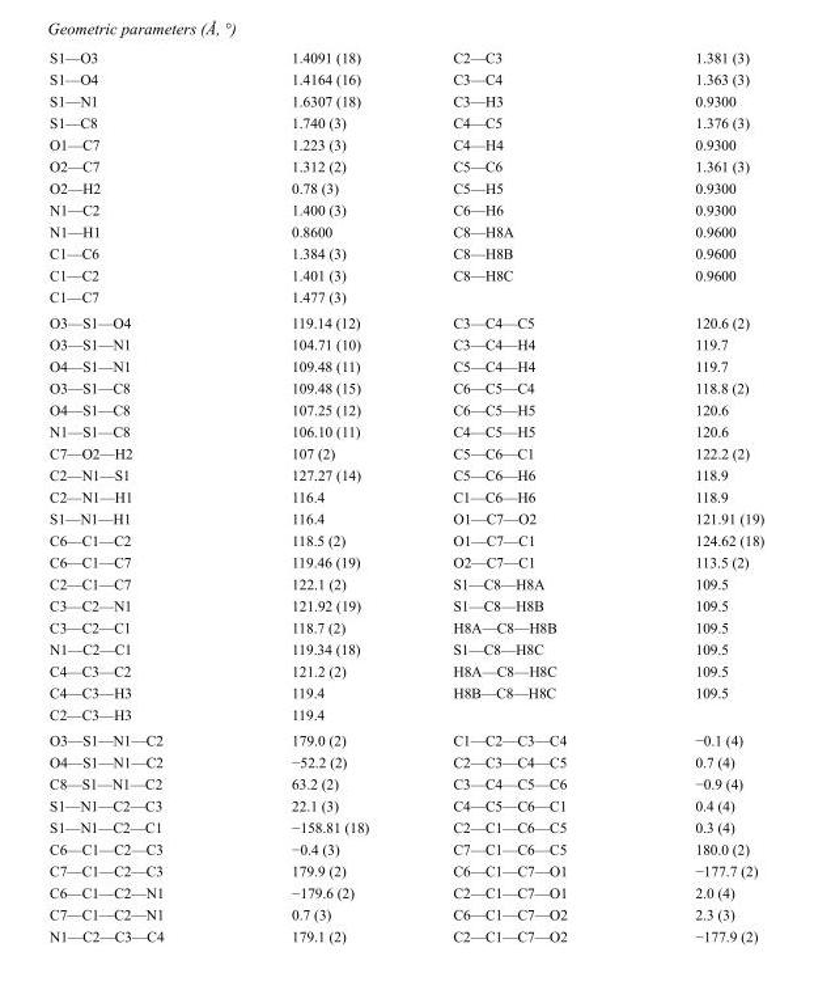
<table><tbody><tr><td>S1—O3</td><td>1.4091 (18)</td><td>C2—C3</td><td>1.381 (3)</td></tr><tr><td>S1—O4</td><td>1.4164 (16)</td><td>C3—C4</td><td>1.363 (3)</td></tr><tr><td>S1—N1</td><td>1.6307 (18)</td><td>C3—H3</td><td>0.9300</td></tr><tr><td>S1—C8</td><td>1.740 (3)</td><td>C4—C5</td><td>1.376 (3)</td></tr><tr><td>O1—C7</td><td>1.223 (3)</td><td>C4—H4</td><td>0.9300</td></tr><tr><td>O2—C7</td><td>1.312 (2)</td><td>C5—C6</td><td>1.361 (3)</td></tr><tr><td>O2—H2</td><td>0.78 (3)</td><td>C5—H5</td><td>0.9300</td></tr><tr><td>N1—C2</td><td>1.400 (3)</td><td>C6—H6</td><td>0.9300</td></tr><tr><td>N1—H1</td><td>0.8600</td><td>C8—H8A</td><td>0.9600</td></tr><tr><td>C1—C6</td><td>1.384 (3)</td><td>C8—H8B</td><td>0.9600</td></tr><tr><td>C1—C2</td><td>1.401 (3)</td><td>C8—H8C</td><td>0.9600</td></tr><tr><td>C1—C7</td><td>1.477 (3)</td><td></td><td></td></tr><tr><td>O3—S1—O4</td><td>119.14 (12)</td><td>C3—C4—C5</td><td>120.6 (2)</td></tr><tr><td>O3—S1—N1</td><td>104.71 (10)</td><td>C3—C4—H4</td><td>119.7</td></tr><tr><td>O4—S1—N1</td><td>109.48 (11)</td><td>C5—C4—H4</td><td>119.7</td></tr><tr><td>O3—S1—C8</td><td>109.48 (15)</td><td>C6—C5—C4</td><td>118.8 (2)</td></tr><tr><td>O4—S1—C8</td><td>107.25 (12)</td><td>C6—C5—H5</td><td>120.6</td></tr><tr><td>N1—S1—C8</td><td>106.10 (11)</td><td>C4—C5—H5</td><td>120.6</td></tr><tr><td>C7—O2—H2</td><td>107 (2)</td><td>C5—C6—C1</td><td>122.2 (2)</td></tr><tr><td>C2—N1—S1</td><td>127.27 (14)</td><td>C5—C6—H6</td><td>118.9</td></tr><tr><td>C2—N1—H1</td><td>116.4</td><td>C1—C6—H6</td><td>118.9</td></tr><tr><td>S1—N1—H1</td><td>116.4</td><td>O1—C7—O2</td><td>121.91 (19)</td></tr><tr><td>C6—C1—C2</td><td>118.5 (2)</td><td>O1—C7—C1</td><td>124.62 (18)</td></tr><tr><td>C6—C1—C7</td><td>119.46 (19)</td><td>O2—C7—C1</td><td>113.5 (2)</td></tr><tr><td>C2—C1—C7</td><td>122.1 (2)</td><td>S1—C8—H8A</td><td>109.5</td></tr><tr><td>C3—C2—N1</td><td>121.92 (19)</td><td>S1—C8—H8B</td><td>109.5</td></tr><tr><td>C3—C2—C1</td><td>118.7 (2)</td><td>H8A—C8—H8B</td><td>109.5</td></tr><tr><td>N1—C2—C1</td><td>119.34 (18)</td><td>S1—C8—H8C</td><td>109.5</td></tr><tr><td>C4—C3—C2</td><td>121.2 (2)</td><td>H8A—C8—H8C</td><td>109.5</td></tr><tr><td>C4—C3—H3</td><td>119.4</td><td>H8B—C8—H8C</td><td>109.5</td></tr><tr><td>C2—C3—H3</td><td>119.4</td><td></td><td></td></tr><tr><td>O3—S1—N1—C2</td><td>179.0 (2)</td><td>C1—C2—C3—C4</td><td>−0.1 (4)</td></tr><tr><td>O4—S1—N1—C2</td><td>−52.2 (2)</td><td>C2—C3—C4—C5</td><td>0.7 (4)</td></tr><tr><td>C8—S1—N1—C2</td><td>63.2 (2)</td><td>C3—C4—C5—C6</td><td>−0.9 (4)</td></tr><tr><td>S1—N1—C2—C3</td><td>22.1 (3)</td><td>C4—C5—C6—C1</td><td>0.4 (4)</td></tr><tr><td>S1—N1—C2—C1</td><td>−158.81 (18)</td><td>C2—C1—C6—C5</td><td>0.3 (4)</td></tr><tr><td>C6—C1—C2—C3</td><td>−0.4 (3)</td><td>C7—C1—C6—C5</td><td>180.0 (2)</td></tr><tr><td>C7—C1—C2—C3</td><td>179.9 (2)</td><td>C6—C1—C7—O1</td><td>−177.7 (2)</td></tr><tr><td>C6—C1—C2—N1</td><td>−179.6 (2)</td><td>C2—C1—C7—O1</td><td>2.0 (4)</td></tr><tr><td>C7—C1—C2—N1</td><td>0.7 (3)</td><td>C6—C1—C7—O2</td><td>2.3 (3)</td></tr><tr><td>N1—C2—C3—C4</td><td>179.1 (2)</td><td>C2—C1—C7—O2</td><td>−177.9 (2)</td></tr></tbody></table>